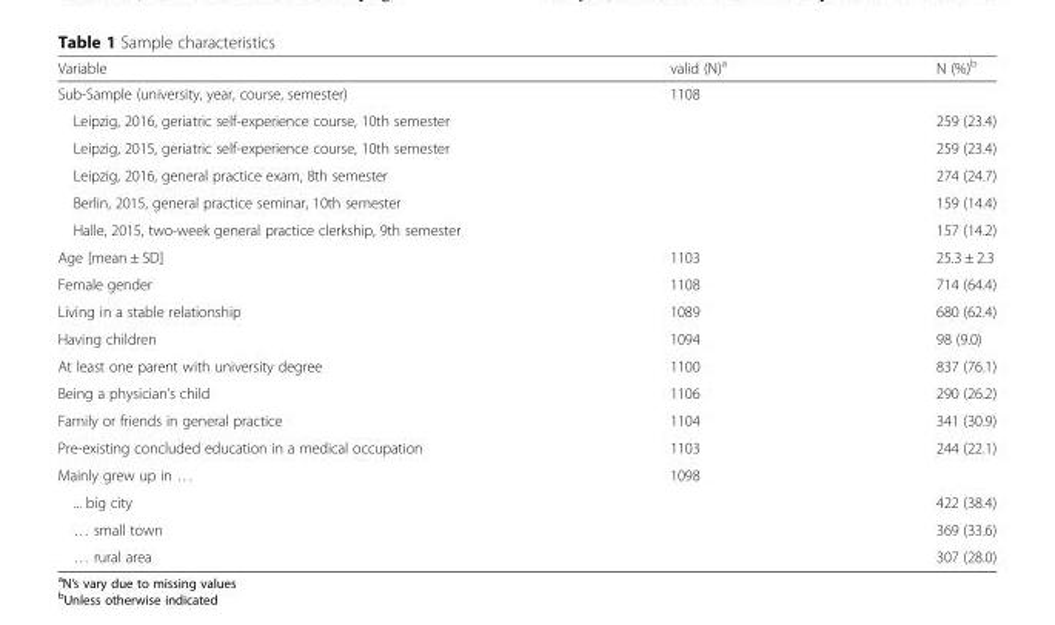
<table><thead><tr><td>Variable</td><td>valid (N)<sup>a</sup></td><td>N (%)<sup>b</sup></td></tr></thead><tbody><tr><td>Sub-Sample (university, year, course, semester)</td><td>1108</td><td></td></tr><tr><td>Leipzig, 2016, geriatric self-experience course, 10th semester</td><td></td><td>259 (23.4)</td></tr><tr><td>Leipzig, 2015, geriatric self-experience course, 10th semester</td><td></td><td>259 (23.4)</td></tr><tr><td>Leipzig, 2016, general practice exam, 8th semester</td><td></td><td>274 (24.7)</td></tr><tr><td>Berlin, 2015, general practice seminar, 10th semester</td><td></td><td>159 (14.4)</td></tr><tr><td>Halle, 2015, two-week general practice clerkship, 9th semester</td><td></td><td>157 (14.2)</td></tr><tr><td>Age [mean ± SD]</td><td>1103</td><td>25.3 ± 2.3</td></tr><tr><td>Female gender</td><td>1108</td><td>714 (64.4)</td></tr><tr><td>Living in a stable relationship</td><td>1089</td><td>680 (62.4)</td></tr><tr><td>Having children</td><td>1094</td><td>98 (9.0)</td></tr><tr><td>At least one parent with university degree</td><td>1100</td><td>837 (76.1)</td></tr><tr><td>Being a physician’s child</td><td>1106</td><td>290 (26.2)</td></tr><tr><td>Family or friends in general practice</td><td>1104</td><td>341 (30.9)</td></tr><tr><td>Pre-existing concluded education in a medical occupation</td><td>1103</td><td>244 (22.1)</td></tr><tr><td>Mainly grew up in …</td><td>1098</td><td></td></tr><tr><td>... big city</td><td></td><td>422 (38.4)</td></tr><tr><td>… small town</td><td></td><td>369 (33.6)</td></tr><tr><td>… rural area</td><td></td><td>307 (28.0)</td></tr></tbody></table>